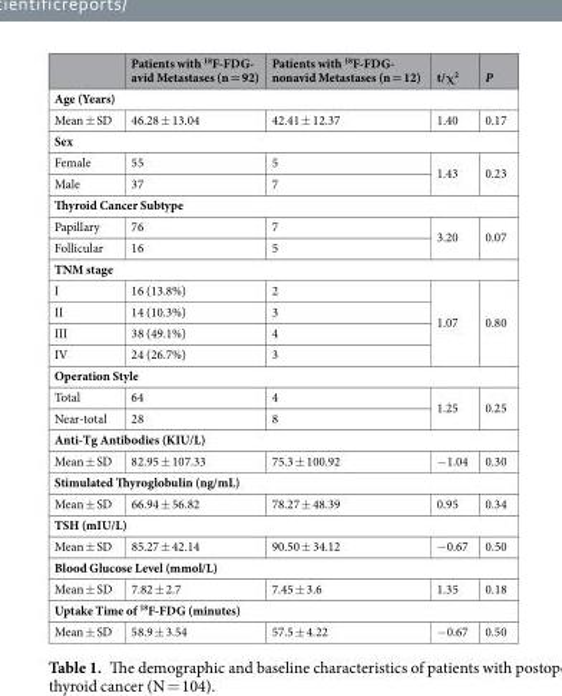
<table><thead><tr><td></td><td>Patients with <sup>18</sup>F-FDG- avid Metastases (n = 92)</td><td>Patients with <sup>18</sup>F-FDG- nonavid Metastases (n = 12)</td><td>t/χ<sup>2</sup></td><td>P</td></tr></thead><tbody><tr><td colspan="5">Age (Years)</td></tr><tr><td>Mean ± SD</td><td>46.28 ± 13.04</td><td>42.41 ± 12.37</td><td>1.40</td><td>0.17</td></tr><tr><td colspan="5">Sex</td></tr><tr><td>Female</td><td>55</td><td>5</td><td rowspan="2">1.43</td><td rowspan="2">0.23</td></tr><tr><td>Male</td><td>37</td><td>7</td></tr><tr><td colspan="5">Thyroid Cancer Subtype</td></tr><tr><td>Papillary</td><td>76</td><td>7</td><td rowspan="2">3.20</td><td rowspan="2">0.07</td></tr><tr><td>Follicular</td><td>16</td><td>5</td></tr><tr><td colspan="5">TNM stage</td></tr><tr><td>I</td><td>16 (13.8%)</td><td>2</td><td rowspan="4">1.07</td><td rowspan="4">0.80</td></tr><tr><td>II</td><td>14 (10.3%)</td><td>3</td></tr><tr><td>III</td><td>38 (49.1%)</td><td>4</td></tr><tr><td>IV</td><td>24 (26.7%)</td><td>3</td></tr><tr><td colspan="5">Operation Style</td></tr><tr><td>Total</td><td>64</td><td>4</td><td rowspan="2">1.25</td><td rowspan="2">0.25</td></tr><tr><td>Near-total</td><td>28</td><td>8</td></tr><tr><td colspan="5">Anti-Tg Antibodies (KIU/L)</td></tr><tr><td>Mean ± SD</td><td>82.95 ± 107.33</td><td>75.3 ± 100.92</td><td>−1.04</td><td>0.30</td></tr><tr><td colspan="5">Stimulated Thyroglobulin (ng/mL)</td></tr><tr><td>Mean ± SD</td><td>66.94 ± 56.82</td><td>78.27 ± 48.39</td><td>0.95</td><td>0.34</td></tr><tr><td colspan="5">TSH (mIU/L)</td></tr><tr><td>Mean ± SD</td><td>85.27 ± 42.14</td><td>90.50 ± 34.12</td><td>−0.67</td><td>0.50</td></tr><tr><td colspan="5">Blood Glucose Level (mmol/L)</td></tr><tr><td>Mean ± SD</td><td>7.82 ± 2.7</td><td>7.45 ± 3.6</td><td>1.35</td><td>0.18</td></tr><tr><td colspan="5">Uptake Time of <sup>18</sup>F-FDG (minutes)</td></tr><tr><td>Mean ± SD</td><td>58.9 ± 3.54</td><td>57.5 ± 4.22</td><td>−0.67</td><td>0.50</td></tr></tbody></table>